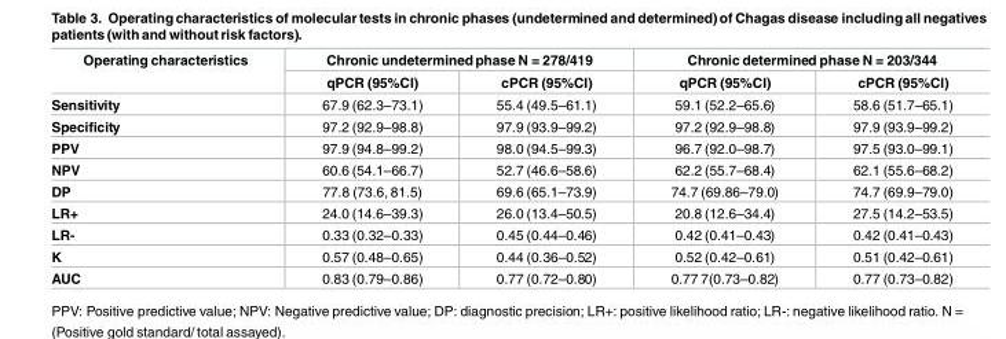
<table><thead><tr><td rowspan="2">Operating characteristics</td><td colspan="2">Chronic undeterminedphase N = 278/419</td><td colspan="2">Chronic determined phase N = 203/344</td></tr><tr><td>qPCR (95%CI)</td><td>cPCR (95%CI)</td><td>qPCR (95%CI)</td><td>cPCR (95%CI)</td></tr></thead><tbody><tr><td>Sensitivity</td><td>67.9 (62.3–73.1)</td><td>55.4 (49.5–61.1)</td><td>59.1 (52.2–65.6)</td><td>58.6 (51.7–65.1)</td></tr><tr><td>Specificity</td><td>97.2 (92.9–98.8)</td><td>97.9 (93.9–99.2)</td><td>97.2 (92.9–98.8)</td><td>97.9 (93.9–99.2)</td></tr><tr><td>PPV</td><td>97.9 (94.8–99.2)</td><td>98.0 (94.5–99.3)</td><td>96.7 (92.0–98.7)</td><td>97.5 (93.0–99.1)</td></tr><tr><td>NPV</td><td>60.6 (54.1–66.7)</td><td>52.7 (46.6–58.6)</td><td>62.2 (55.7–68.4)</td><td>62.1 (55.6–68.2)</td></tr><tr><td>DP</td><td>77.8 (73.6, 81.5)</td><td>69.6 (65.1–73.9)</td><td>74.7 (69.86–79.0)</td><td>74.7 (69.9–79.0)</td></tr><tr><td>LR+</td><td>24.0 (14.6–39.3)</td><td>26.0 (13.4–50.5)</td><td>20.8 (12.6–34.4)</td><td>27.5 (14.2–53.5)</td></tr><tr><td>LR-</td><td>0.33 (0.32–0.33)</td><td>0.45 (0.44–0.46)</td><td>0.42 (0.41–0.43)</td><td>0.42 (0.41–0.43)</td></tr><tr><td>K</td><td>0.57 (0.48–0.65)</td><td>0.44 (0.36–0.52)</td><td>0.52 (0.42–0.61)</td><td>0.51 (0.42–0.61)</td></tr><tr><td>AUC</td><td>0.83 (0.79–0.86)</td><td>0.77 (0.72–0.80)</td><td>0.77 7(0.73–0.82)</td><td>0.77 (0.73–0.82)</td></tr></tbody></table>